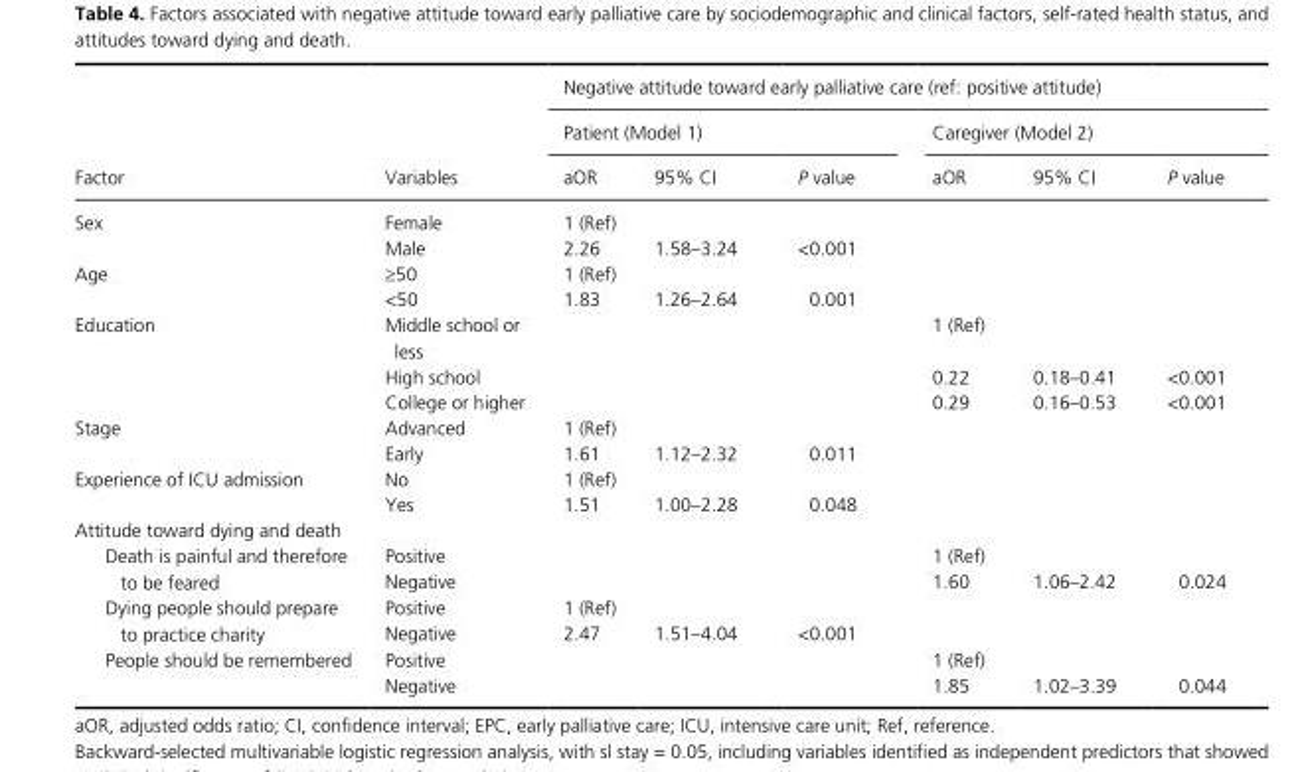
<table><thead><tr><td rowspan="3">Factor</td><td rowspan="3">Variables</td><td colspan="6">Negative attitude toward early palliative care (ref: positive attitude)</td></tr><tr><td colspan="3">Patient (Model 1)</td><td colspan="3">Caregiver (Model 2)</td></tr><tr><td>aOR</td><td>95% CI</td><td>P value</td><td>aOR</td><td>95% CI</td><td>P value</td></tr></thead><tbody><tr><td rowspan="2">Sex</td><td>Female</td><td>1 (Ref)</td><td></td><td></td><td></td><td></td><td></td></tr><tr><td>Male</td><td>2.26</td><td>1.58–3.24</td><td>&lt;0.001</td><td></td><td></td><td></td></tr><tr><td rowspan="2">Age</td><td>≥50</td><td>1 (Ref)</td><td></td><td></td><td></td><td></td><td></td></tr><tr><td>&lt;50</td><td>1.83</td><td>1.26–2.64</td><td>0.001</td><td></td><td></td><td></td></tr><tr><td rowspan="3">Education</td><td>Middle school or less</td><td></td><td></td><td></td><td>1 (Ref)</td><td></td><td></td></tr><tr><td>High school</td><td></td><td></td><td></td><td>0.22</td><td>0.18–0.41</td><td>&lt;0.001</td></tr><tr><td>College or higher</td><td></td><td></td><td></td><td>0.29</td><td>0.16–0.53</td><td>&lt;0.001</td></tr><tr><td rowspan="2">Stage</td><td>Advanced</td><td>1 (Ref)</td><td></td><td></td><td></td><td></td><td></td></tr><tr><td>Early</td><td>1.61</td><td>1.12–2.32</td><td>0.011</td><td></td><td></td><td></td></tr><tr><td rowspan="2">Experience of ICU admission</td><td>No</td><td>1 (Ref)</td><td></td><td></td><td></td><td></td><td></td></tr><tr><td>Yes</td><td>1.51</td><td>1.00–2.28</td><td>0.048</td><td></td><td></td><td></td></tr><tr><td colspan="8">Attitude toward dying and death</td></tr><tr><td rowspan="2">Death is painful and therefore to be feared</td><td>Positive</td><td></td><td></td><td></td><td>1 (Ref)</td><td></td><td></td></tr><tr><td>Negative</td><td></td><td></td><td></td><td>1.60</td><td>1.06–2.42</td><td>0.024</td></tr><tr><td rowspan="2">Dying people should prepare to practice charity</td><td>Positive</td><td>1 (Ref)</td><td></td><td></td><td></td><td></td><td></td></tr><tr><td>Negative</td><td>2.47</td><td>1.51–4.04</td><td>&lt;0.001</td><td></td><td></td><td></td></tr><tr><td rowspan="2">People should be remembered</td><td>Positive</td><td></td><td></td><td></td><td>1 (Ref)</td><td></td><td></td></tr><tr><td>Negative</td><td></td><td></td><td></td><td>1.85</td><td>1.02–3.39</td><td>0.044</td></tr></tbody></table>